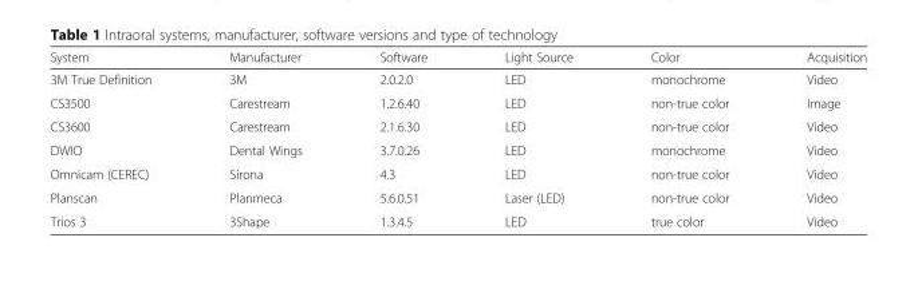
<table><thead><tr><td>System</td><td>Manufacturer</td><td>Software</td><td>Light Source</td><td>Color</td><td>Acquisition</td></tr></thead><tbody><tr><td>3M True Definition</td><td>3M</td><td>2.0.2.0</td><td>LED</td><td>monochrome</td><td>Video</td></tr><tr><td>CS3500</td><td>Carestream</td><td>1.2.6.40</td><td>LED</td><td>non-true color</td><td>Image</td></tr><tr><td>CS3600</td><td>Carestream</td><td>2.1.6.30</td><td>LED</td><td>non-true color</td><td>Video</td></tr><tr><td>DWIO</td><td>Dental Wings</td><td>3.7.0.26</td><td>LED</td><td>monochrome</td><td>Video</td></tr><tr><td>Omnicam (CEREC)</td><td>Sirona</td><td>4.3</td><td>LED</td><td>non-true color</td><td>Video</td></tr><tr><td>Planscan</td><td>Planmeca</td><td>5.6.0.51</td><td>Laser (LED)</td><td>non-true color</td><td>Video</td></tr><tr><td>Trios 3</td><td>3Shape</td><td>1.3.4.5</td><td>LED</td><td>true color</td><td>Video</td></tr></tbody></table>